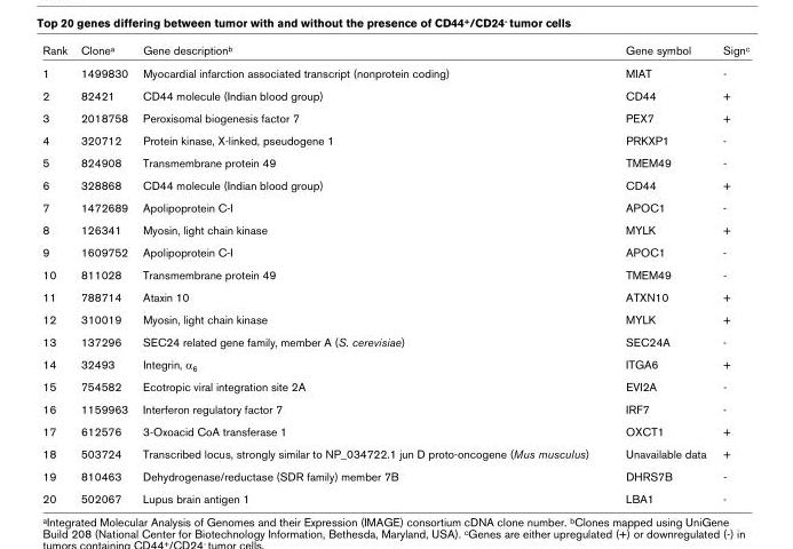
<table><thead><tr><td>Rank</td><td>Clone<sup>a</sup></td><td>Gene description<sup>b</sup></td><td>Gene symbol</td><td>Sign<sup>c</sup></td></tr></thead><tbody><tr><td>1</td><td>1499830</td><td>Myocardial infarction associated transcript (nonprotein coding)</td><td>MIAT</td><td>-</td></tr><tr><td>2</td><td>82421</td><td>CD44 molecule (Indian blood group)</td><td>CD44</td><td>+</td></tr><tr><td>3</td><td>2018758</td><td>Peroxisomal biogenesis factor 7</td><td>PEX7</td><td>+</td></tr><tr><td>4</td><td>320712</td><td>Protein kinase, X-linked, pseudogene 1</td><td>PRKXP1</td><td>-</td></tr><tr><td>5</td><td>824908</td><td>Transmembrane protein 49</td><td>TMEM49</td><td>-</td></tr><tr><td>6</td><td>328868</td><td>CD44 molecule (Indian blood group)</td><td>CD44</td><td>+</td></tr><tr><td>7</td><td>1472689</td><td>Apolipoprotein C-I</td><td>APOC1</td><td>-</td></tr><tr><td>8</td><td>126341</td><td>Myosin, light chain kinase</td><td>MYLK</td><td>+</td></tr><tr><td>9</td><td>1609752</td><td>Apolipoprotein C-I</td><td>APOC1</td><td>-</td></tr><tr><td>10</td><td>811028</td><td>Transmembrane protein 49</td><td>TMEM49</td><td>-</td></tr><tr><td>11</td><td>788714</td><td>Ataxin 10</td><td>ATXN10</td><td>+</td></tr><tr><td>12</td><td>310019</td><td>Myosin, light chain kinase</td><td>MYLK</td><td>+</td></tr><tr><td>13</td><td>137296</td><td>SEC24 related gene family, member A (S. cerevisiae)</td><td>SEC24A</td><td>-</td></tr><tr><td>14</td><td>32493</td><td>Integrin, α<sub>6</sub></td><td>ITGA6</td><td>+</td></tr><tr><td>15</td><td>754582</td><td>Ecotropic viral integration site 2A</td><td>EVI2A</td><td>-</td></tr><tr><td>16</td><td>1159963</td><td>Interferon regulatory factor 7</td><td>IRF7</td><td>-</td></tr><tr><td>17</td><td>612576</td><td>3-Oxoacid CoA transferase 1</td><td>OXCT1</td><td>+</td></tr><tr><td>18</td><td>503724</td><td>Transcribed locus, strongly similar to NP_034722.1 jun D proto-oncogene (Mus musculus)</td><td>Unavailable data</td><td>+</td></tr><tr><td>19</td><td>810463</td><td>Dehydrogenase/reductase (SDR family) member 7B</td><td>DHRS7B</td><td>-</td></tr><tr><td>20</td><td>502067</td><td>Lupus brain antigen 1</td><td>LBA1</td><td>-</td></tr></tbody></table>